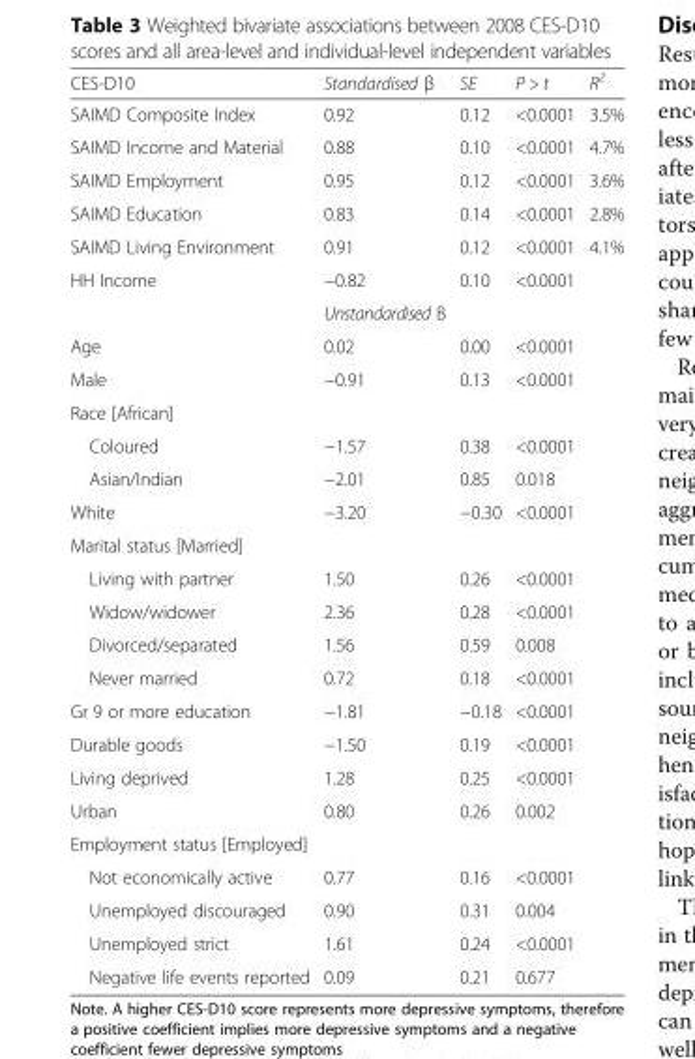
<table><thead><tr><td>CES-D10</td><td>Standardised β</td><td>SE</td><td>P &gt; t</td><td>R<sup>2</sup></td></tr></thead><tbody><tr><td>SAIMD Composite Index</td><td>0.92</td><td>0.12</td><td>&lt;0.0001</td><td>3.5%</td></tr><tr><td>SAIMD Income and Material</td><td>0.88</td><td>0.10</td><td>&lt;0.0001</td><td>4.7%</td></tr><tr><td>SAIMD Employment</td><td>0.95</td><td>0.12</td><td>&lt;0.0001</td><td>3.6%</td></tr><tr><td>SAIMD Education</td><td>0.83</td><td>0.14</td><td>&lt;0.0001</td><td>2.8%</td></tr><tr><td>SAIMD Living Environment</td><td>0.91</td><td>0.12</td><td>&lt;0.0001</td><td>4.1%</td></tr><tr><td rowspan="2">HH Income</td><td>−0.82</td><td>0.10</td><td>&lt;0.0001</td><td></td></tr><tr><td>Unstandardised B</td><td></td><td></td><td></td></tr><tr><td>Age</td><td>0.02</td><td>0.00</td><td>&lt;0.0001</td><td></td></tr><tr><td>Male</td><td>−0.91</td><td>0.13</td><td>&lt;0.0001</td><td></td></tr><tr><td colspan="5">Race [African]</td></tr><tr><td>Coloured</td><td>−1.57</td><td>0.38</td><td>&lt;0.0001</td><td></td></tr><tr><td>Asian/Indian</td><td>−2.01</td><td>0.85</td><td>0.018</td><td></td></tr><tr><td>White</td><td>−3.20</td><td>−0.30</td><td>&lt;0.0001</td><td></td></tr><tr><td colspan="5">Marital status [Married]</td></tr><tr><td>Living with partner</td><td>1.50</td><td>0.26</td><td>&lt;0.0001</td><td></td></tr><tr><td>Widow/widower</td><td>2.36</td><td>0.28</td><td>&lt;0.0001</td><td></td></tr><tr><td>Divorced/separated</td><td>1.56</td><td>0.59</td><td>0.008</td><td></td></tr><tr><td>Never married</td><td>0.72</td><td>0.18</td><td>&lt;0.0001</td><td></td></tr><tr><td>Gr 9 or more education</td><td>−1.81</td><td>−0.18</td><td>&lt;0.0001</td><td></td></tr><tr><td>Durable goods</td><td>−1.50</td><td>0.19</td><td>&lt;0.0001</td><td></td></tr><tr><td>Living deprived</td><td>1.28</td><td>0.25</td><td>&lt;0.0001</td><td></td></tr><tr><td>Urban</td><td>0.80</td><td>0.26</td><td>0.002</td><td></td></tr><tr><td colspan="5">Employment status [Employed]</td></tr><tr><td>Not economically active</td><td>0.77</td><td>0.16</td><td>&lt;0.0001</td><td></td></tr><tr><td>Unemployed discouraged</td><td>0.90</td><td>0.31</td><td>0.004</td><td></td></tr><tr><td>Unemployed strict</td><td>1.61</td><td>0.24</td><td>&lt;0.0001</td><td></td></tr><tr><td>Negative life events reported</td><td>0.09</td><td>0.21</td><td>0.677</td><td></td></tr></tbody></table>